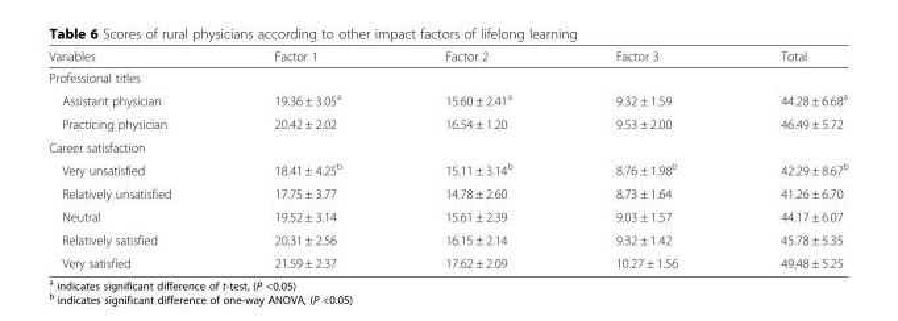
<table><thead><tr><td>Variables</td><td>Factor 1</td><td>Factor 2</td><td>Factor 3</td><td>Total</td></tr></thead><tbody><tr><td colspan="5">Professional titles</td></tr><tr><td>Assistant physician</td><td>19.36 ± 3.05<sup>a</sup></td><td>15.60 ± 2.41<sup>a</sup></td><td>9.32 ± 1.59</td><td>44.28 ± 6.68<sup>a</sup></td></tr><tr><td>Practicing physician</td><td>20.42 ± 2.02</td><td>16.54 ± 1.20</td><td>9.53 ± 2.00</td><td>46.49 ± 5.72</td></tr><tr><td colspan="5">Career satisfaction</td></tr><tr><td>Very unsatisfied</td><td>18.41 ± 4.25<sup>b</sup></td><td>15.11 ± 3.14<sup>b</sup></td><td>8.76 ± 1.98<sup>b</sup></td><td>42.29 ± 8.67<sup>b</sup></td></tr><tr><td>Relatively unsatisfied</td><td>17.75 ± 3.77</td><td>14.78 ± 2.60</td><td>8.73 ± 1.64</td><td>41.26 ± 6.70</td></tr><tr><td>Neutral</td><td>19.52 ± 3.14</td><td>15.61 ± 2.39</td><td>9.03 ± 1.57</td><td>44.17 ± 6.07</td></tr><tr><td>Relatively satisfied</td><td>20.31 ± 2.56</td><td>16.15 ± 2.14</td><td>9.32 ± 1.42</td><td>45.78 ± 5.35</td></tr><tr><td>Very satisfied</td><td>21.59 ± 2.37</td><td>17.62 ± 2.09</td><td>10.27 ± 1.56</td><td>49.48 ± 5.25</td></tr></tbody></table>